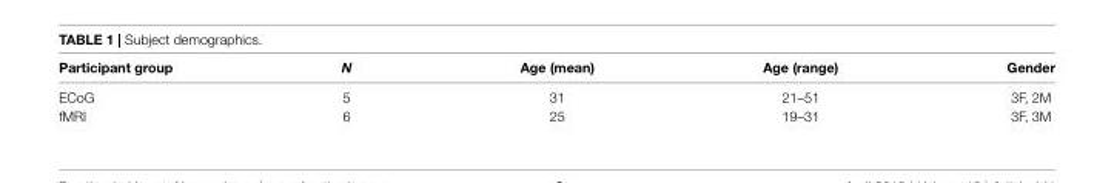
<table><thead><tr><td>Participant group</td><td>N</td><td>Age (mean)</td><td>Age (range)</td><td>Gender</td></tr></thead><tbody><tr><td>ECoG</td><td>5</td><td>31</td><td>21–51</td><td>3F, 2M</td></tr><tr><td>fMRI</td><td>6</td><td>25</td><td>19–31</td><td>3F, 3M</td></tr></tbody></table>